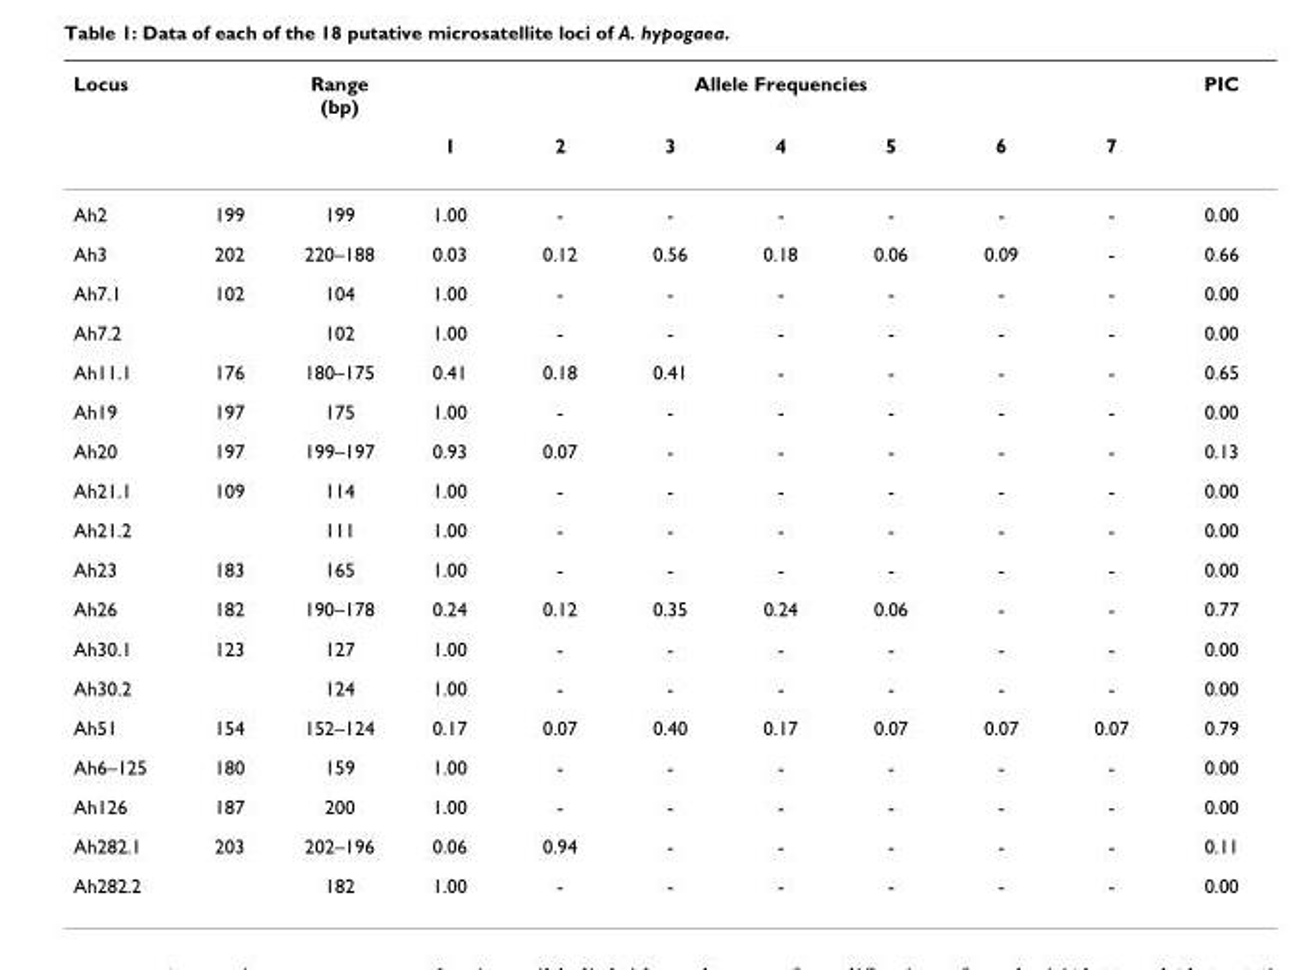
<table><thead><tr><td rowspan="2">Locus</td><td rowspan="2"></td><td rowspan="2">Range (bp)</td><td colspan="7">Allele Frequencies</td><td rowspan="2">PIC</td></tr><tr><td>1</td><td>2</td><td>3</td><td>4</td><td>5</td><td>6</td><td>7</td></tr></thead><tbody><tr><td>Ah2</td><td>199</td><td>199</td><td>1.00</td><td>-</td><td>-</td><td>-</td><td>-</td><td>-</td><td>-</td><td>0.00</td></tr><tr><td>Ah3</td><td>202</td><td>220–188</td><td>0.03</td><td>0.12</td><td>0.56</td><td>0.18</td><td>0.06</td><td>0.09</td><td>-</td><td>0.66</td></tr><tr><td>Ah7.1</td><td>102</td><td>104</td><td>1.00</td><td>-</td><td>-</td><td>-</td><td>-</td><td>-</td><td>-</td><td>0.00</td></tr><tr><td>Ah7.2</td><td></td><td>102</td><td>1.00</td><td>-</td><td>-</td><td>-</td><td>-</td><td>-</td><td>-</td><td>0.00</td></tr><tr><td>Ah11.1</td><td>176</td><td>180–175</td><td>0.41</td><td>0.18</td><td>0.41</td><td>-</td><td>-</td><td>-</td><td>-</td><td>0.65</td></tr><tr><td>Ah19</td><td>197</td><td>175</td><td>1.00</td><td>-</td><td>-</td><td>-</td><td>-</td><td>-</td><td>-</td><td>0.00</td></tr><tr><td>Ah20</td><td>197</td><td>199–197</td><td>0.93</td><td>0.07</td><td>-</td><td>-</td><td>-</td><td>-</td><td>-</td><td>0.13</td></tr><tr><td>Ah21.1</td><td>109</td><td>114</td><td>1.00</td><td>-</td><td>-</td><td>-</td><td>-</td><td>-</td><td>-</td><td>0.00</td></tr><tr><td>Ah21.2</td><td></td><td>111</td><td>1.00</td><td>-</td><td>-</td><td>-</td><td>-</td><td>-</td><td>-</td><td>0.00</td></tr><tr><td>Ah23</td><td>183</td><td>165</td><td>1.00</td><td>-</td><td>-</td><td>-</td><td>-</td><td>-</td><td>-</td><td>0.00</td></tr><tr><td>Ah26</td><td>182</td><td>190–178</td><td>0.24</td><td>0.12</td><td>0.35</td><td>0.24</td><td>0.06</td><td>-</td><td>-</td><td>0.77</td></tr><tr><td>Ah30.1</td><td>123</td><td>127</td><td>1.00</td><td>-</td><td>-</td><td>-</td><td>-</td><td>-</td><td>-</td><td>0.00</td></tr><tr><td>Ah30.2</td><td></td><td>124</td><td>1.00</td><td>-</td><td>-</td><td>-</td><td>-</td><td>-</td><td>-</td><td>0.00</td></tr><tr><td>Ah51</td><td>154</td><td>152–124</td><td>0.17</td><td>0.07</td><td>0.40</td><td>0.17</td><td>0.07</td><td>0.07</td><td>0.07</td><td>0.79</td></tr><tr><td>Ah6–125</td><td>180</td><td>159</td><td>1.00</td><td>-</td><td>-</td><td>-</td><td>-</td><td>-</td><td>-</td><td>0.00</td></tr><tr><td>Ah126</td><td>187</td><td>200</td><td>1.00</td><td>-</td><td>-</td><td>-</td><td>-</td><td>-</td><td>-</td><td>0.00</td></tr><tr><td>Ah282.1</td><td>203</td><td>202–196</td><td>0.06</td><td>0.94</td><td>-</td><td>-</td><td>-</td><td>-</td><td>-</td><td>0.11</td></tr><tr><td>Ah282.2</td><td></td><td>182</td><td>1.00</td><td>-</td><td>-</td><td>-</td><td>-</td><td>-</td><td>-</td><td>0.00</td></tr></tbody></table>